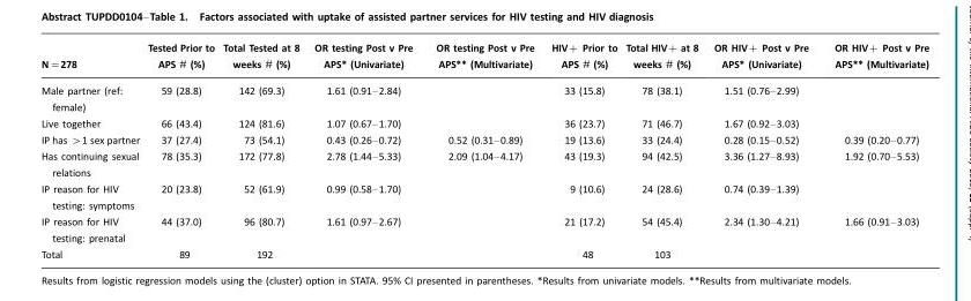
<table><thead><tr><td>N=278</td><td>Tested Prior to APS # (%)</td><td>Total Tested at 8 weeks # (%)</td><td>OR testing Post v Pre APS* (Univariate)</td><td>OR testing Post v Pre APS** (Multivariate)</td><td>HIV+ Prior to APS # (%)</td><td>Total HIV+ at 8 weeks # (%)</td><td>OR HIV+ Post v Pre APS* (Univariate)</td><td>OR HIV+ Post v Pre APS** (Multivariate)</td></tr></thead><tbody><tr><td>Male partner (ref: female)</td><td>59 (28.8)</td><td>142 (69.3)</td><td>1.61 (0.91–2.84)</td><td></td><td>33 (15.8)</td><td>78 (38.1)</td><td>1.51 (0.76–2.99)</td><td></td></tr><tr><td>Live together</td><td>66 (43.4)</td><td>124 (81.6)</td><td>1.07 (0.67–1.70)</td><td></td><td>36 (23.7)</td><td>71 (46.7)</td><td>1.67 (0.92–3.03)</td><td></td></tr><tr><td>IP has &gt;1 sex partner</td><td>37 (27.4)</td><td>73 (54.1)</td><td>0.43 (0.26–0.72)</td><td>0.52 (0.31–0.89)</td><td>19 (13.6)</td><td>33 (24.4)</td><td>0.28 (0.15–0.52)</td><td>0.39 (0.20–0.77)</td></tr><tr><td>Has continuing sexual relations</td><td>78 (35.3)</td><td>172 (77.8)</td><td>2.78 (1.44–5.33)</td><td>2.09 (1.04–4.17)</td><td>43 (19.3)</td><td>94 (42.5)</td><td>3.36 (1.27–8.93)</td><td>1.92 (0.70–5.53)</td></tr><tr><td>IP reason for HIV testing: symptoms</td><td>20 (23.8)</td><td>52 (61.9)</td><td>0.99 (0.58–1.70)</td><td></td><td>9 (10.6)</td><td>24 (28.6)</td><td>0.74 (0.39–1.39)</td><td></td></tr><tr><td>IP reason for HIV testing: prenatal</td><td>44 (37.0)</td><td>96 (80.7)</td><td>1.61 (0.97–2.67)</td><td></td><td>21 (17.2)</td><td>54 (45.4)</td><td>2.34 (1.30–4.21)</td><td>1.66 (0.91–3.03)</td></tr><tr><td>Total</td><td>89</td><td>192</td><td></td><td></td><td>48</td><td>103</td><td></td><td></td></tr></tbody></table>